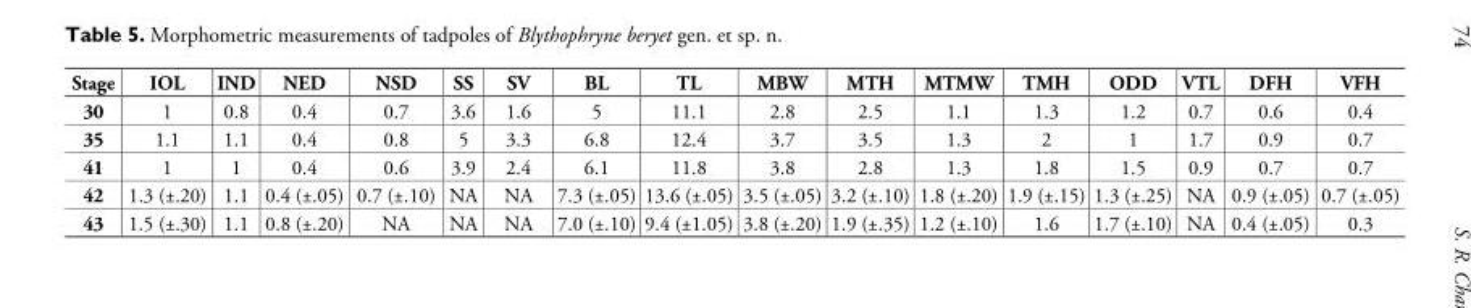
<table><thead><tr><td>Stage</td><td>IOL</td><td>IND</td><td>NED</td><td>NSD</td><td>SS</td><td>SV</td><td>BL</td><td>TL</td><td>MBW</td><td>MTH</td><td>MTMW</td><td>TMH</td><td>ODD</td><td>VTL</td><td>DFH</td><td>VFH</td></tr></thead><tbody><tr><td>30</td><td>1</td><td>0.8</td><td>0.4</td><td>0.7</td><td>3.6</td><td>1.6</td><td>5</td><td>11.1</td><td>2.8</td><td>2.5</td><td>1.1</td><td>1.3</td><td>1.2</td><td>0.7</td><td>0.6</td><td>0.4</td></tr><tr><td>35</td><td>1.1</td><td>1.1</td><td>0.4</td><td>0.8</td><td>5</td><td>3.3</td><td>6.8</td><td>12.4</td><td>3.7</td><td>3.5</td><td>1.3</td><td>2</td><td>1</td><td>1.7</td><td>0.9</td><td>0.7</td></tr><tr><td>41</td><td>1</td><td>1</td><td>0.4</td><td>0.6</td><td>3.9</td><td>2.4</td><td>6.1</td><td>11.8</td><td>3.8</td><td>2.8</td><td>1.3</td><td>1.8</td><td>1.5</td><td>0.9</td><td>0.7</td><td>0.7</td></tr><tr><td>42</td><td>1.3 (±.20)</td><td>1.1</td><td>0.4 (±.05)</td><td>0.7 (±.10)</td><td>NA</td><td>NA</td><td>7.3 (±.05)</td><td>13.6 (±.05)</td><td>3.5 (±.05)</td><td>3.2 (±.10)</td><td>1.8 (±.20)</td><td>1.9 (±.15)</td><td>1.3 (±.25)</td><td>NA</td><td>0.9 (±.05)</td><td>0.7 (±.05)</td></tr><tr><td>43</td><td>1.5 (±.30)</td><td>1.1</td><td>0.8 (±.20)</td><td>NA</td><td>NA</td><td>NA</td><td>7.0 (±.10)</td><td>9.4 (±1.05)</td><td>3.8 (±.20)</td><td>1.9 (±.35)</td><td>1.2 (±.10)</td><td>1.6</td><td>1.7 (±.10)</td><td>NA</td><td>0.4 (±.05)</td><td>0.3</td></tr></tbody></table>